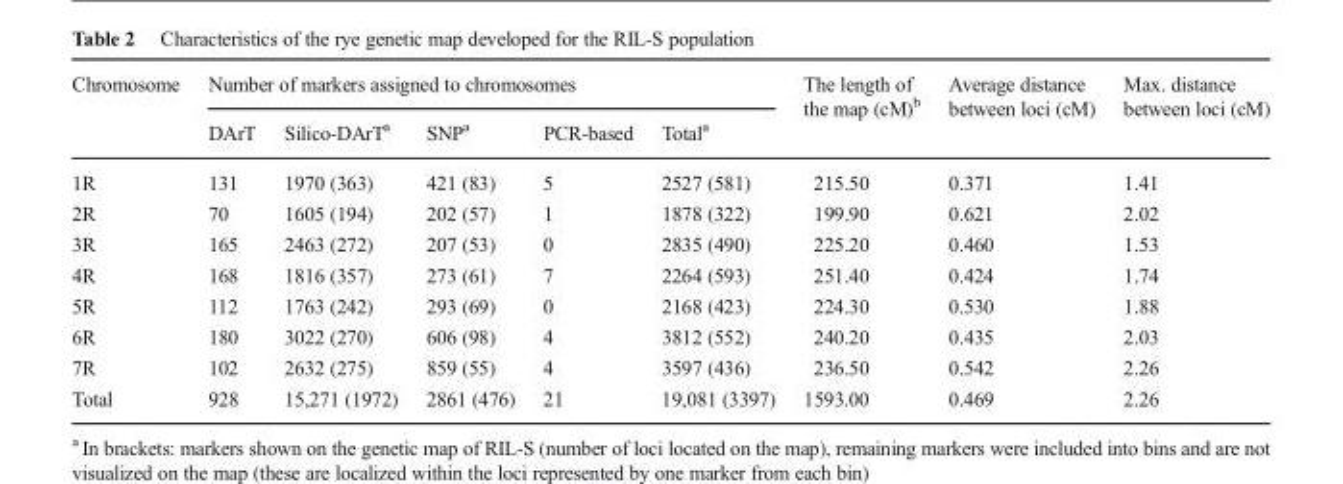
<table><thead><tr><td rowspan="2">Chromosome</td><td colspan="5">Number of markers assigned to chromosomes</td><td rowspan="2">The length of the map (cM)<sup>b</sup></td><td rowspan="2">Average distance between loci (cM)</td><td rowspan="2">Max. distance between loci (cM)</td></tr><tr><td>DArT</td><td>Silico-DArT<sup>a</sup></td><td>SNP<sup>a</sup></td><td>PCR-based</td><td>Total<sup>a</sup></td></tr></thead><tbody><tr><td>1R</td><td>131</td><td>1970 (363)</td><td>421 (83)</td><td>5</td><td>2527 (581)</td><td>215.50</td><td>0.371</td><td>1.41</td></tr><tr><td>2R</td><td>70</td><td>1605 (194)</td><td>202 (57)</td><td>1</td><td>1878 (322)</td><td>199.90</td><td>0.621</td><td>2.02</td></tr><tr><td>3R</td><td>165</td><td>2463 (272)</td><td>207 (53)</td><td>0</td><td>2835 (490)</td><td>225.20</td><td>0.460</td><td>1.53</td></tr><tr><td>4R</td><td>168</td><td>1816 (357)</td><td>273 (61)</td><td>7</td><td>2264 (593)</td><td>251.40</td><td>0.424</td><td>1.74</td></tr><tr><td>5R</td><td>112</td><td>1763 (242)</td><td>293 (69)</td><td>0</td><td>2168 (423)</td><td>224.30</td><td>0.530</td><td>1.88</td></tr><tr><td>6R</td><td>180</td><td>3022 (270)</td><td>606 (98)</td><td>4</td><td>3812 (552)</td><td>240.20</td><td>0.435</td><td>2.03</td></tr><tr><td>7R</td><td>102</td><td>2632 (275)</td><td>859 (55)</td><td>4</td><td>3597 (436)</td><td>236.50</td><td>0.542</td><td>2.26</td></tr><tr><td>Total</td><td>928</td><td>15,271 (1972)</td><td>2861 (476)</td><td>21</td><td>19,081 (3397)</td><td>1593.00</td><td>0.469</td><td>2.26</td></tr></tbody></table>